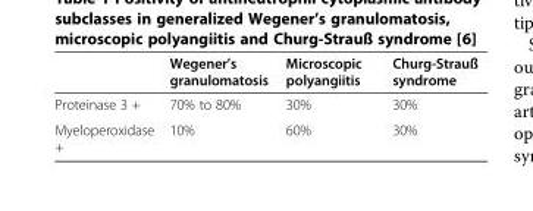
<table><thead><tr><td></td><td>Wegener’s granulomatosis</td><td>Microscopic polyangiitis</td><td>Churg-Strauß syndrome</td></tr></thead><tbody><tr><td>Proteinase 3 +</td><td>70% to 80%</td><td>30%</td><td>30%</td></tr><tr><td>Myeloperoxidase +</td><td>10%</td><td>60%</td><td>30%</td></tr></tbody></table>